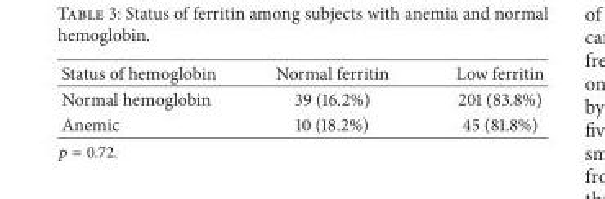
<table><thead><tr><td>Status of hemoglobin</td><td>Normal ferritin</td><td>Low ferritin</td></tr></thead><tbody><tr><td>Normal hemoglobin</td><td>39 (16.2%)</td><td>201 (83.8%)</td></tr><tr><td>Anemic</td><td>10 (18.2%)</td><td>45 (81.8%)</td></tr></tbody></table>